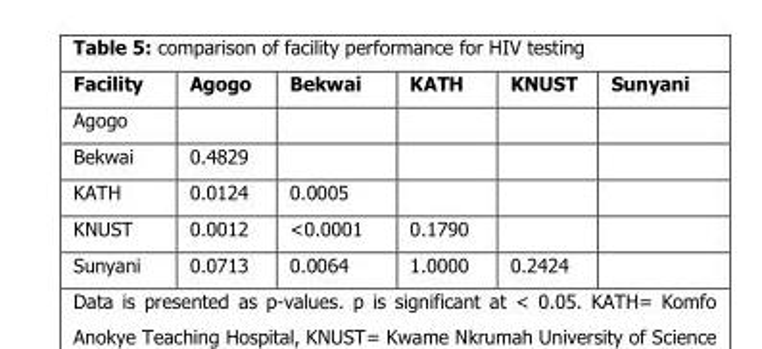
<table><thead><tr><td>Facility</td><td>Agogo</td><td>Bekwai</td><td>KATH</td><td>KNUST</td><td>Sunyani</td></tr></thead><tbody><tr><td colspan="6">Agogo</td></tr><tr><td>Bekwai</td><td>0.4829</td><td></td><td></td><td></td><td></td></tr><tr><td>KATH</td><td>0.0124</td><td>0.0005</td><td></td><td></td><td></td></tr><tr><td>KNUST</td><td>0.0012</td><td>&lt;0.0001</td><td>0.1790</td><td></td><td></td></tr><tr><td>Sunyani</td><td>0.0713</td><td>0.0064</td><td>1.0000</td><td>0.2424</td><td></td></tr></tbody></table>